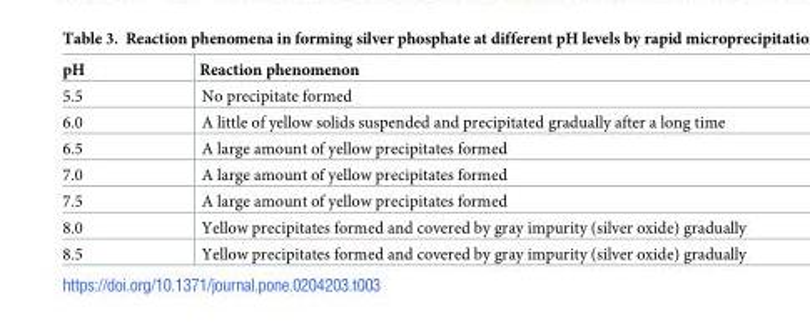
<table><thead><tr><td>pH</td><td>Reaction phenomenon</td></tr></thead><tbody><tr><td>5.5</td><td>No precipitate formed</td></tr><tr><td>6.0</td><td>A little of yellow solids suspended and precipitated gradually after a long time</td></tr><tr><td>6.5</td><td>A large amount of yellow precipitates formed</td></tr><tr><td>7.0</td><td>A large amount of yellow precipitates formed</td></tr><tr><td>7.5</td><td>A large amount of yellow precipitates formed</td></tr><tr><td>8.0</td><td>Yellow precipitates formed and covered by gray impurity (silver oxide) gradually</td></tr><tr><td>8.5</td><td>Yellow precipitates formed and covered by gray impurity (silver oxide) gradually</td></tr></tbody></table>